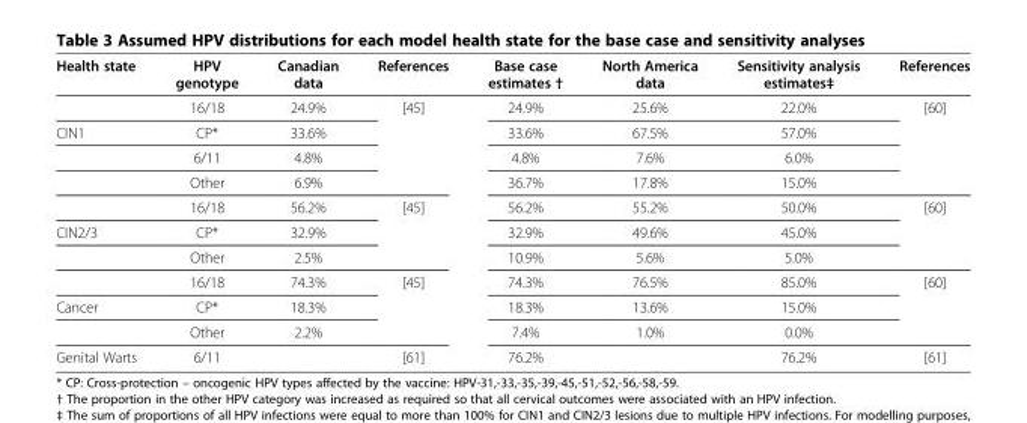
<table><thead><tr><td>Health state</td><td>HPV genotype</td><td>Canadian data</td><td>References</td><td>Base case estimates †</td><td>North America data</td><td>Sensitivity analysis estimates‡</td><td>References</td></tr></thead><tbody><tr><td></td><td>16/18</td><td>24.9%</td><td>[45]</td><td>24.9%</td><td>25.6%</td><td>22.0%</td><td>[60]</td></tr><tr><td rowspan="4">CIN1</td><td>CP*</td><td>33.6%</td><td></td><td>33.6%</td><td>67.5%</td><td>57.0%</td><td></td></tr><tr><td>6/11</td><td>4.8%</td><td></td><td>4.8%</td><td>7.6%</td><td>6.0%</td><td></td></tr><tr><td>Other</td><td>6.9%</td><td></td><td>36.7%</td><td>17.8%</td><td>15.0%</td><td></td></tr><tr><td>16/18</td><td>56.2%</td><td>[45]</td><td>56.2%</td><td>55.2%</td><td>50.0%</td><td>[60]</td></tr><tr><td rowspan="3">CIN2/3</td><td>CP*</td><td>32.9%</td><td></td><td>32.9%</td><td>49.6%</td><td>45.0%</td><td></td></tr><tr><td>Other</td><td>2.5%</td><td></td><td>10.9%</td><td>5.6%</td><td>5.0%</td><td></td></tr><tr><td>16/18</td><td>74.3%</td><td>[45]</td><td>74.3%</td><td>76.5%</td><td>85.0%</td><td>[60]</td></tr><tr><td rowspan="2">Cancer</td><td>CP*</td><td>18.3%</td><td></td><td>18.3%</td><td>13.6%</td><td>15.0%</td><td></td></tr><tr><td>Other</td><td>2.2%</td><td></td><td>7.4%</td><td>1.0%</td><td>0.0%</td><td></td></tr><tr><td>Genital Warts</td><td>6/11</td><td></td><td>[61]</td><td>76.2%</td><td></td><td>76.2%</td><td>[61]</td></tr></tbody></table>